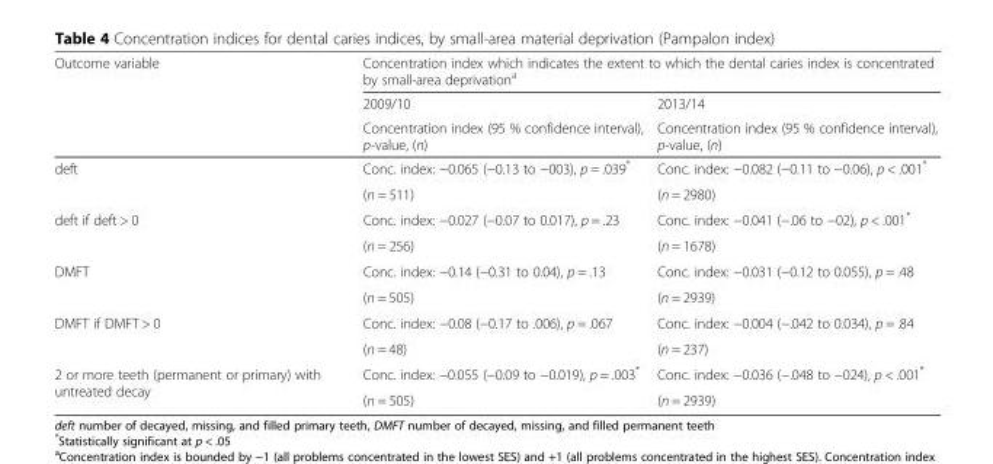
<table><thead><tr><td rowspan="3">Outcome variable</td><td colspan="2">Concentration index which indicates the extent to which the dental caries index is concentrated by small-area deprivation<sup>a</sup></td></tr><tr><td rowspan="2">2009/10 Concentration index (95 % confidence interval), p-value, (n)</td><td rowspan="2">2013/14 Concentration index (95 % confidence interval), p-value, (n)</td></tr><tr></tr></thead><tbody><tr><td rowspan="2">deft</td><td>Conc. index: −0.065 (−0.13 to −003), p = .039*</td><td>Conc. index: −0.082 (−0.11 to −0.06), p &lt; .001*</td></tr><tr><td>(n = 511)</td><td>(n = 2980)</td></tr><tr><td rowspan="2">deft if deft &gt; 0</td><td>Conc. index: −0.027 (−0.07 to 0.017), p = .23</td><td>Conc. index: −0.041 (−.06 to −02), p &lt; .001*</td></tr><tr><td>(n = 256)</td><td>(n = 1678)</td></tr><tr><td rowspan="2">DMFT</td><td>Conc. index: −0.14 (−0.31 to 0.04), p = .13</td><td>Conc. index: −0.031 (−0.12 to 0.055), p = .48</td></tr><tr><td>(n = 505)</td><td>(n = 2939)</td></tr><tr><td rowspan="2">DMFT if DMFT &gt; 0</td><td>Conc. index: −0.08 (−0.17 to .006), p = .067</td><td>Conc. index: −0.004 (−.042 to 0.034), p = .84</td></tr><tr><td>(n = 48)</td><td>(n = 237)</td></tr><tr><td rowspan="2">2 or more teeth (permanent or primary) with untreated decay</td><td>Conc. index: −0.055 (−0.09 to −0.019), p = .003*</td><td>Conc. index: −0.036 (−.048 to −024), p &lt; .001*</td></tr><tr><td>(n = 505)</td><td>(n = 2939)</td></tr></tbody></table>